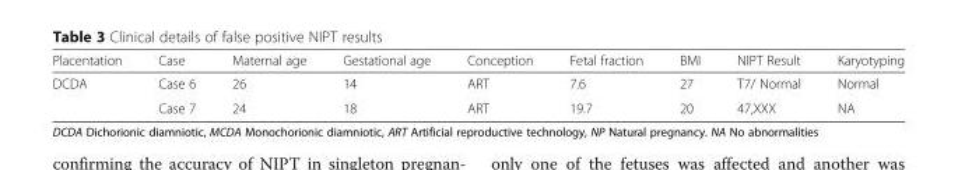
<table><thead><tr><td>Placentation</td><td>Case</td><td>Maternal age</td><td>Gestational age</td><td>Conception</td><td>Fetal fraction</td><td>BMI</td><td>NIPT Result</td><td>Karyotyping</td></tr></thead><tbody><tr><td rowspan="2">DCDA</td><td>Case 6</td><td>26</td><td>14</td><td>ART</td><td>7.6</td><td>27</td><td>T7/ Normal</td><td>Normal</td></tr><tr><td>Case 7</td><td>24</td><td>18</td><td>ART</td><td>19.7</td><td>20</td><td>47,XXX</td><td>NA</td></tr></tbody></table>